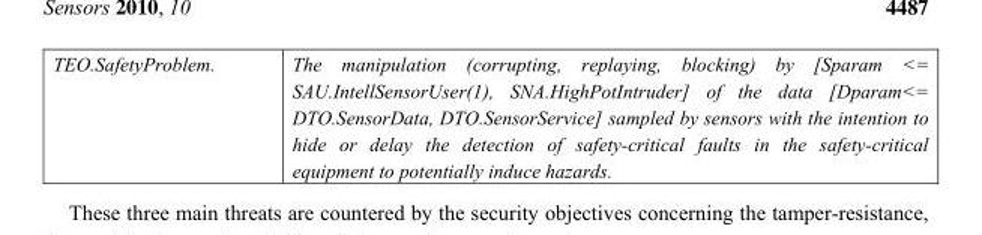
<table><tbody><tr><td>TEO.SafetyProblem.</td><td>The manipulation (corrupting, replaying, blocking) by [Sparam &lt;= SAU.IntellSensorUser(1), SNA.HighPotIntruder] of the data [Dparam&lt;= DTO.SensorData, DTO.SensorService] sampled by sensors with the intention to hide or delay the detection of safety-critical faults in the safety-critical equipment to potentially induce hazards.</td></tr></tbody></table>